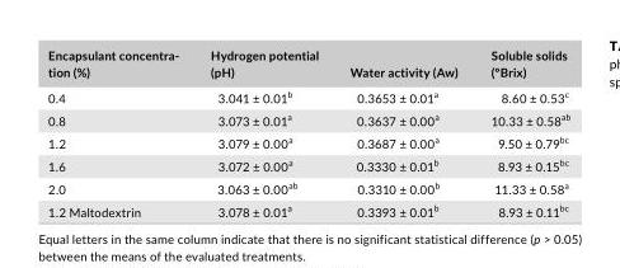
<table><thead><tr><td>Encapsulant concentra- tion (%)</td><td>Hydrogen potential (pH)</td><td>Water activity (Aw)</td><td>Soluble solids (ºBrix)</td></tr></thead><tbody><tr><td>0.4</td><td>3.041 ± 0.01<sup>b</sup></td><td>0.3653 ± 0.01<sup>a</sup></td><td>8.60 ± 0.53<sup>c</sup></td></tr><tr><td>0.8</td><td>3.073 ± 0.01<sup>a</sup></td><td>0.3637 ± 0.00<sup>a</sup></td><td>10.33 ± 0.58<sup>ab</sup></td></tr><tr><td>1.2</td><td>3.079 ± 0.00<sup>a</sup></td><td>0.3687 ± 0.00<sup>a</sup></td><td>9.50 ± 0.79<sup>bc</sup></td></tr><tr><td>1.6</td><td>3.072 ± 0.00<sup>a</sup></td><td>0.3330 ± 0.01<sup>b</sup></td><td>8.93 ± 0.15<sup>bc</sup></td></tr><tr><td>2.0</td><td>3.063 ± 0.00<sup>ab</sup></td><td>0.3310 ± 0.00<sup>b</sup></td><td>11.33 ± 0.58<sup>a</sup></td></tr><tr><td>1.2 Maltodextrin</td><td>3.078 ± 0.01<sup>a</sup></td><td>0.3393 ± 0.01<sup>b</sup></td><td>8.93 ± 0.11<sup>bc</sup></td></tr></tbody></table>